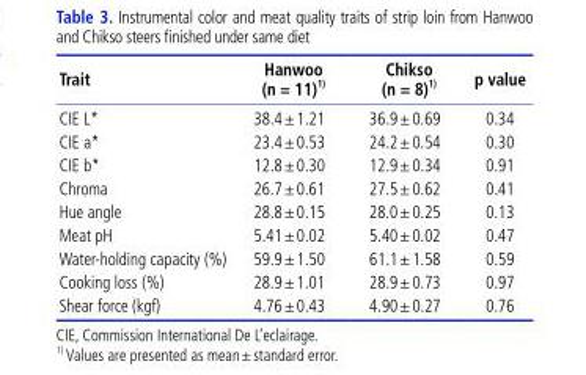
<table><thead><tr><td>Trait</td><td>Hanwoo (n = 11) 1)</td><td>Chikso (n = 8) 1)</td><td>p value</td></tr></thead><tbody><tr><td>CIE L*</td><td>38.4±1.21</td><td>36.9±0.69</td><td>0.34</td></tr><tr><td>CIE a*</td><td>23.4±0.53</td><td>24.2±0.54</td><td>0.30</td></tr><tr><td>CIE b*</td><td>12.8±0.30</td><td>12.9±0.34</td><td>0.91</td></tr><tr><td>Chroma</td><td>26.7±0.61</td><td>27.5±0.62</td><td>0.41</td></tr><tr><td>Hue angle</td><td>28.8±0.15</td><td>28.0±0.25</td><td>0.13</td></tr><tr><td>Meat pH</td><td>5.41±0.02</td><td>5.40±0.02</td><td>0.47</td></tr><tr><td>Water-holding capacity (%)</td><td>59.9±1.50</td><td>61.1±1.58</td><td>0.59</td></tr><tr><td>Cooking loss (%)</td><td>28.9±1.01</td><td>28.9±0.73</td><td>0.97</td></tr><tr><td>Shear force (kgf)</td><td>4.76±0.43</td><td>4.90±0.27</td><td>0.76</td></tr></tbody></table>